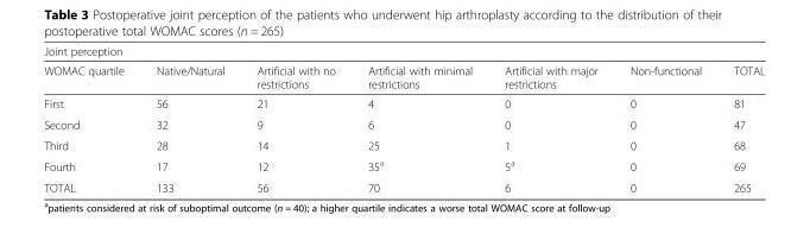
<table><thead><tr><td colspan="7">Joint perception</td></tr><tr><td>WOMAC quartile</td><td>Native/Natural</td><td>Artificial with no restrictions</td><td>Artificial with minimal restrictions</td><td>Artificial with major restrictions</td><td>Non-functional</td><td>TOTAL</td></tr></thead><tbody><tr><td>First</td><td>56</td><td>21</td><td>4</td><td>0</td><td>0</td><td>81</td></tr><tr><td>Second</td><td>32</td><td>9</td><td>6</td><td>0</td><td>0</td><td>47</td></tr><tr><td>Third</td><td>28</td><td>14</td><td>25</td><td>1</td><td>0</td><td>68</td></tr><tr><td>Fourth</td><td>17</td><td>12</td><td>35<sup>a</sup></td><td>5<sup>a</sup></td><td>0</td><td>69</td></tr><tr><td>TOTAL</td><td>133</td><td>56</td><td>70</td><td>6</td><td>0</td><td>265</td></tr></tbody></table>